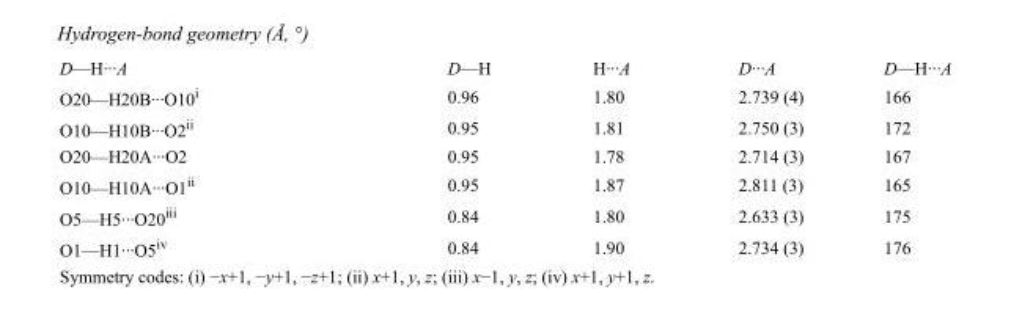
<table><tbody><tr><td>D—H···A</td><td>D—H</td><td>H···A</td><td>D···A</td><td>D—H···A</td></tr><tr><td>O20—H20B···O10<sup>i</sup></td><td>0.96</td><td>1.80</td><td>2.739 (4)</td><td>166</td></tr><tr><td>O10—H10B···O2<sup>ii</sup></td><td>0.95</td><td>1.81</td><td>2.750 (3)</td><td>172</td></tr><tr><td>O20—H20A···O2</td><td>0.95</td><td>1.78</td><td>2.714 (3)</td><td>167</td></tr><tr><td>O10—H10A···O1<sup>ii</sup></td><td>0.95</td><td>1.87</td><td>2.811 (3)</td><td>165</td></tr><tr><td>O5—H5···O20<sup>iii</sup></td><td>0.84</td><td>1.80</td><td>2.633 (3)</td><td>175</td></tr><tr><td>O1—H1···O5<sup>iv</sup></td><td>0.84</td><td>1.90</td><td>2.734 (3)</td><td>176</td></tr></tbody></table>